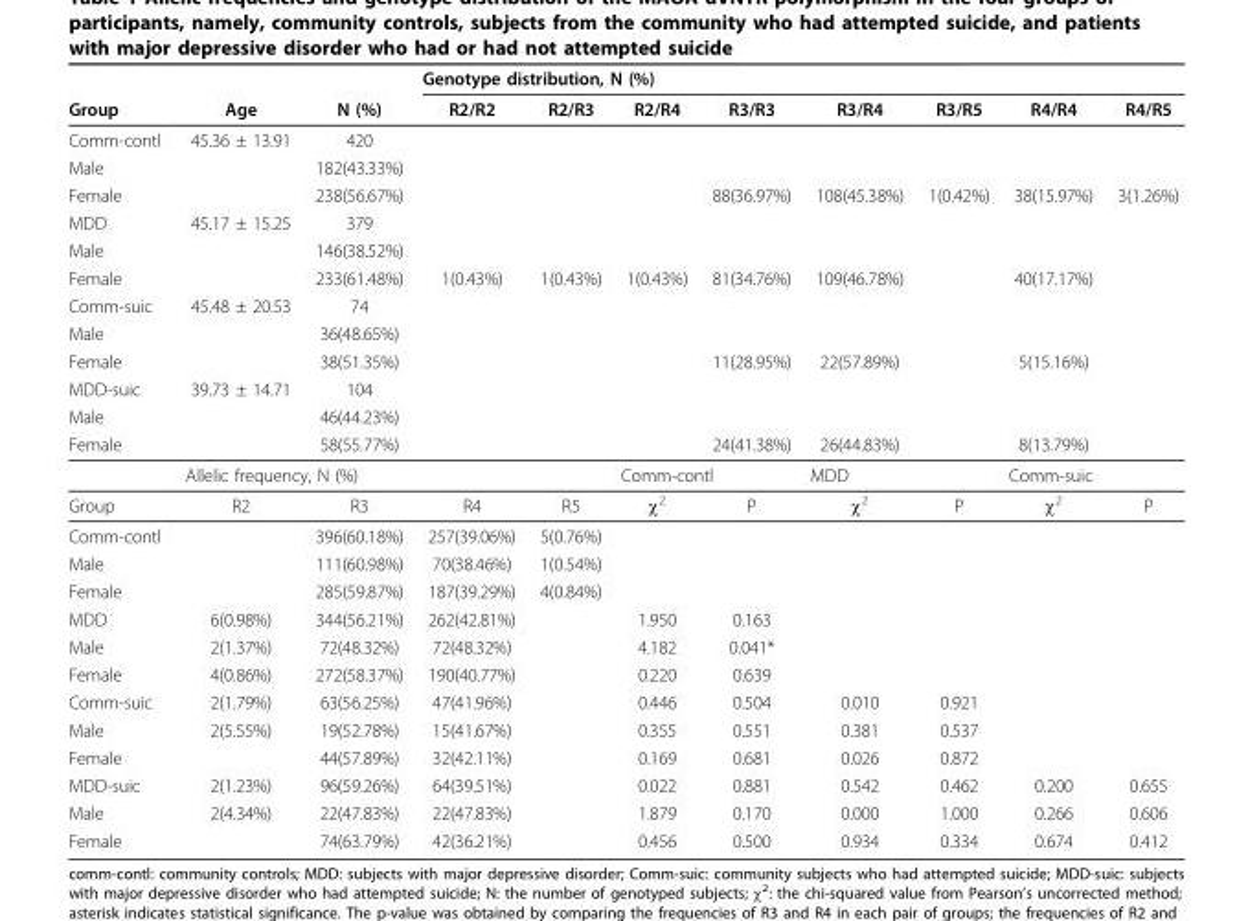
<table><thead><tr><td rowspan="2">Group</td><td rowspan="2">Age</td><td rowspan="2">N (%)</td><td colspan="8">Genotype distribution, N (%)</td></tr><tr><td>R2/R2</td><td>R2/R3</td><td>R2/R4</td><td>R3/R3</td><td>R3/R4</td><td>R3/R5</td><td>R4/R4</td><td>R4/R5</td></tr></thead><tbody><tr><td>Comm-contl</td><td>45.36 ± 13.91</td><td>420</td><td></td><td></td><td></td><td></td><td></td><td></td><td></td><td></td></tr><tr><td>Male</td><td></td><td>182(43.33%)</td><td></td><td></td><td></td><td></td><td></td><td></td><td></td><td></td></tr><tr><td>Female</td><td></td><td>238(56.67%)</td><td></td><td></td><td></td><td>88(36.97%)</td><td>108(45.38%)</td><td>1(0.42%)</td><td>38(15.97%)</td><td>3(1.26%)</td></tr><tr><td>MDD</td><td>45.17 ± 15.25</td><td>379</td><td></td><td></td><td></td><td></td><td></td><td></td><td></td><td></td></tr><tr><td>Male</td><td></td><td>146(38.52%)</td><td></td><td></td><td></td><td></td><td></td><td></td><td></td><td></td></tr><tr><td>Female</td><td></td><td>233(61.48%)</td><td>1(0.43%)</td><td>1(0.43%)</td><td>1(0.43%)</td><td>81(34.76%)</td><td>109(46.78%)</td><td></td><td>40(17.17%)</td><td></td></tr><tr><td>Comm-suic</td><td>45.48 ± 20.53</td><td>74</td><td></td><td></td><td></td><td></td><td></td><td></td><td></td><td></td></tr><tr><td>Male</td><td></td><td>36(48.65%)</td><td></td><td></td><td></td><td></td><td></td><td></td><td></td><td></td></tr><tr><td>Female</td><td></td><td>38(51.35%)</td><td></td><td></td><td></td><td>11(28.95%)</td><td>22(57.89%)</td><td></td><td>5(15.16%)</td><td></td></tr><tr><td>MDD-suic</td><td>39.73 ± 14.71</td><td>104</td><td></td><td></td><td></td><td></td><td></td><td></td><td></td><td></td></tr><tr><td>Male</td><td></td><td>46(44.23%)</td><td></td><td></td><td></td><td></td><td></td><td></td><td></td><td></td></tr><tr><td rowspan="2">Female</td><td></td><td>58(55.77%)</td><td></td><td></td><td></td><td>24(41.38%)</td><td>26(44.83%)</td><td></td><td>8(13.79%)</td><td></td></tr><tr><td colspan="4">Allelic frequency, N (%)</td><td colspan="2">Comm-contl</td><td colspan="2">MDD</td><td colspan="2">Comm-suic</td></tr><tr><td>Group</td><td>R2</td><td>R3</td><td>R4</td><td>R5</td><td>χ<sup>2</sup></td><td>P</td><td>χ<sup>2</sup></td><td>P</td><td>χ<sup>2</sup></td><td>P</td></tr><tr><td>Comm-contl</td><td></td><td>396(60.18%)</td><td>257(39.06%)</td><td>5(0.76%)</td><td></td><td></td><td></td><td></td><td></td><td></td></tr><tr><td>Male</td><td></td><td>111(60.98%)</td><td>70(38.46%)</td><td>1(0.54%)</td><td></td><td></td><td></td><td></td><td></td><td></td></tr><tr><td>Female</td><td></td><td>285(59.87%)</td><td>187(39.29%)</td><td>4(0.84%)</td><td></td><td></td><td></td><td></td><td></td><td></td></tr><tr><td>MDD</td><td>6(0.98%)</td><td>344(56.21%)</td><td>262(42.81%)</td><td></td><td>1.950</td><td>0.163</td><td></td><td></td><td></td><td></td></tr><tr><td>Male</td><td>2(1.37%)</td><td>72(48.32%)</td><td>72(48.32%)</td><td></td><td>4.182</td><td>0.041*</td><td></td><td></td><td></td><td></td></tr><tr><td>Female</td><td>4(0.86%)</td><td>272(58.37%)</td><td>190(40.77%)</td><td></td><td>0.220</td><td>0.639</td><td></td><td></td><td></td><td></td></tr><tr><td>Comm-suic</td><td>2(1.79%)</td><td>63(56.25%)</td><td>47(41.96%)</td><td></td><td>0.446</td><td>0.504</td><td>0.010</td><td>0.921</td><td></td><td></td></tr><tr><td>Male</td><td>2(5.55%)</td><td>19(52.78%)</td><td>15(41.67%)</td><td></td><td>0.355</td><td>0.551</td><td>0.381</td><td>0.537</td><td></td><td></td></tr><tr><td>Female</td><td></td><td>44(57.89%)</td><td>32(42.11%)</td><td></td><td>0.169</td><td>0.681</td><td>0.026</td><td>0.872</td><td></td><td></td></tr><tr><td>MDD-suic</td><td>2(1.23%)</td><td>96(59.26%)</td><td>64(39.51%)</td><td></td><td>0.022</td><td>0.881</td><td>0.542</td><td>0.462</td><td>0.200</td><td>0.655</td></tr><tr><td>Male</td><td>2(4.34%)</td><td>22(47.83%)</td><td>22(47.83%)</td><td></td><td>1.879</td><td>0.170</td><td>0.000</td><td>1.000</td><td>0.266</td><td>0.606</td></tr><tr><td>Female</td><td></td><td>74(63.79%)</td><td>42(36.21%)</td><td></td><td>0.456</td><td>0.500</td><td>0.934</td><td>0.334</td><td>0.674</td><td>0.412</td></tr></tbody></table>